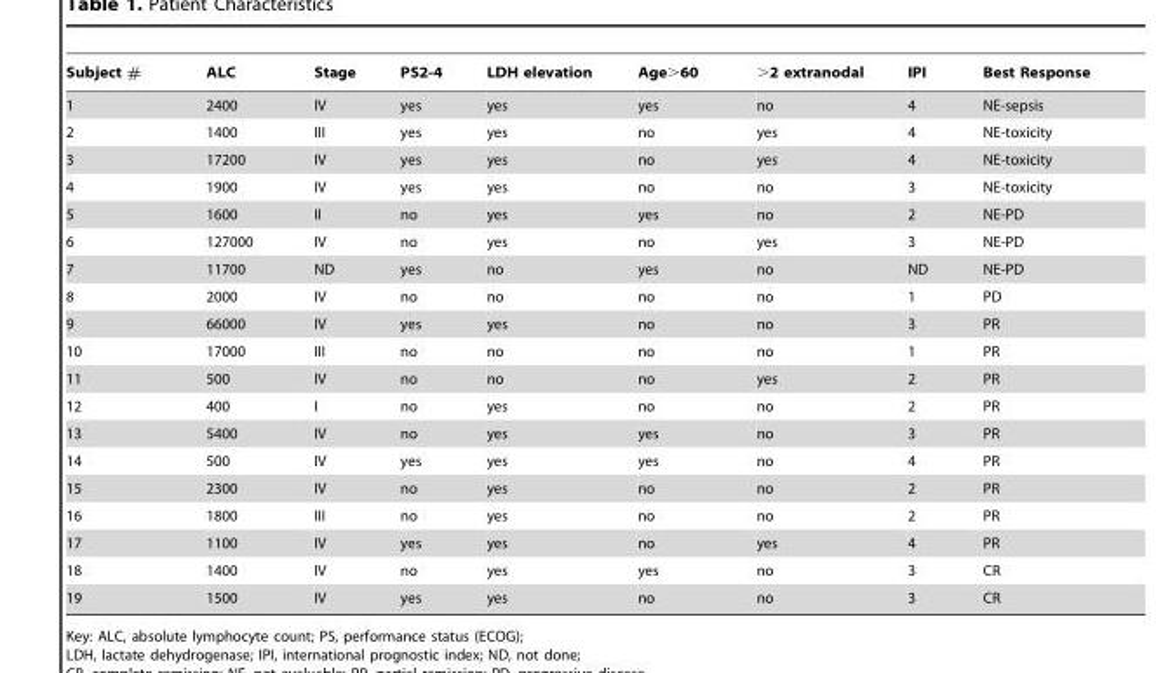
<table><thead><tr><td>Subject #</td><td>ALC</td><td>Stage</td><td>PS2-4</td><td>LDH elevation</td><td>Age&gt;60</td><td>&gt;2 extranodal</td><td>IPI</td><td>Best Response</td></tr></thead><tbody><tr><td>1</td><td>2400</td><td>IV</td><td>yes</td><td>yes</td><td>yes</td><td>no</td><td>4</td><td>NE-sepsis</td></tr><tr><td>2</td><td>1400</td><td>III</td><td>yes</td><td>yes</td><td>no</td><td>yes</td><td>4</td><td>NE-toxicity</td></tr><tr><td>3</td><td>17200</td><td>IV</td><td>yes</td><td>yes</td><td>no</td><td>yes</td><td>4</td><td>NE-toxicity</td></tr><tr><td>4</td><td>1900</td><td>IV</td><td>yes</td><td>yes</td><td>no</td><td>no</td><td>3</td><td>NE-toxicity</td></tr><tr><td>5</td><td>1600</td><td>II</td><td>no</td><td>yes</td><td>yes</td><td>no</td><td>2</td><td>NE-PD</td></tr><tr><td>6</td><td>127000</td><td>IV</td><td>no</td><td>yes</td><td>no</td><td>yes</td><td>3</td><td>NE-PD</td></tr><tr><td>7</td><td>11700</td><td>ND</td><td>yes</td><td>no</td><td>yes</td><td>no</td><td>ND</td><td>NE-PD</td></tr><tr><td>8</td><td>2000</td><td>IV</td><td>no</td><td>no</td><td>no</td><td>no</td><td>1</td><td>PD</td></tr><tr><td>9</td><td>66000</td><td>IV</td><td>yes</td><td>yes</td><td>no</td><td>no</td><td>3</td><td>PR</td></tr><tr><td>10</td><td>17000</td><td>III</td><td>no</td><td>no</td><td>no</td><td>no</td><td>1</td><td>PR</td></tr><tr><td>11</td><td>500</td><td>IV</td><td>no</td><td>no</td><td>no</td><td>yes</td><td>2</td><td>PR</td></tr><tr><td>12</td><td>400</td><td>I</td><td>no</td><td>yes</td><td>no</td><td>no</td><td>2</td><td>PR</td></tr><tr><td>13</td><td>5400</td><td>IV</td><td>no</td><td>yes</td><td>yes</td><td>no</td><td>3</td><td>PR</td></tr><tr><td>14</td><td>500</td><td>IV</td><td>yes</td><td>yes</td><td>yes</td><td>no</td><td>4</td><td>PR</td></tr><tr><td>15</td><td>2300</td><td>IV</td><td>no</td><td>yes</td><td>no</td><td>no</td><td>2</td><td>PR</td></tr><tr><td>16</td><td>1800</td><td>III</td><td>no</td><td>yes</td><td>no</td><td>no</td><td>2</td><td>PR</td></tr><tr><td>17</td><td>1100</td><td>IV</td><td>yes</td><td>yes</td><td>no</td><td>yes</td><td>4</td><td>PR</td></tr><tr><td>18</td><td>1400</td><td>IV</td><td>no</td><td>yes</td><td>yes</td><td>no</td><td>3</td><td>CR</td></tr><tr><td>19</td><td>1500</td><td>IV</td><td>yes</td><td>yes</td><td>no</td><td>no</td><td>3</td><td>CR</td></tr></tbody></table>